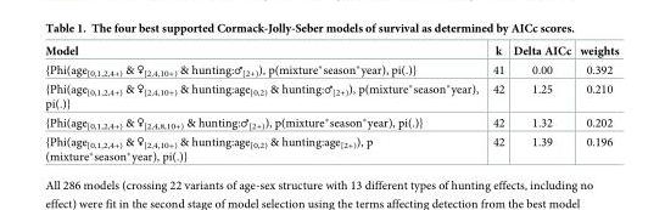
<table><thead><tr><td>Model</td><td>k</td><td>Delta AICc</td><td>weights</td></tr></thead><tbody><tr><td>{Phi(age<sub>[0,1,2,4+)</sub> &amp; ♀<sub>[2,4,10+)</sub> &amp; hunting:♂<sub>[2+)</sub>), p(mixture*season*year), pi(.)}</td><td>41</td><td>0.00</td><td>0.392</td></tr><tr><td>{Phi(age<sub>[0,1,2,4+)</sub> &amp; ♀<sub>[2,4,10+)</sub> &amp; hunting:age<sub>[0,2)</sub> &amp; hunting:♂<sub>[2+)</sub>), p(mixture*season*year), pi(.)}</td><td>42</td><td>1.25</td><td>0.210</td></tr><tr><td>{Phi(age<sub>[0,1,2,4+)</sub> &amp; ♀<sub>[2,4,8,10+)</sub> &amp; hunting:♂<sub>[2+)</sub>), p(mixture*season*year), pi(.)}</td><td>42</td><td>1.32</td><td>0.202</td></tr><tr><td>{Phi(age<sub>[0,1,2,4+)</sub> &amp; ♀<sub>[2,4,10+)</sub> &amp; hunting:age<sub>[0,2)</sub> &amp; hunting:age<sub>[2+)</sub>), p (mixture*season*year), pi(.)}</td><td>42</td><td>1.39</td><td>0.196</td></tr></tbody></table>